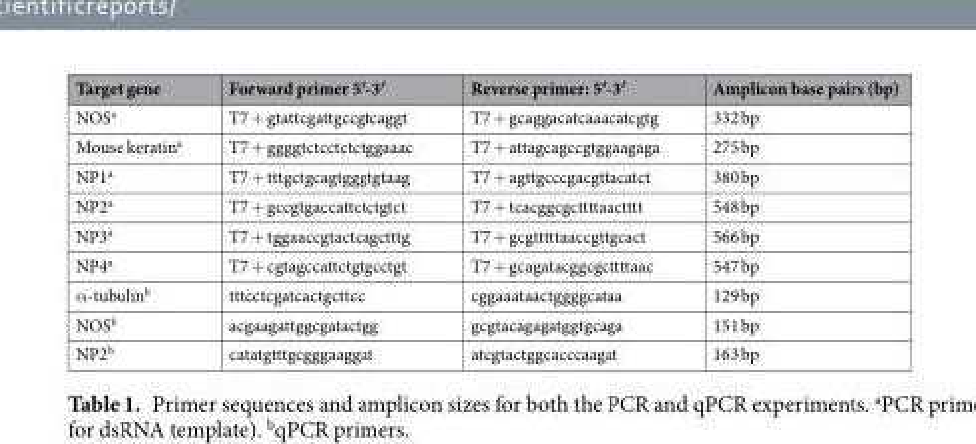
<table><thead><tr><td>Target gene</td><td>Forward primer 5′-3′</td><td>Reverse primer: 5′-3′</td><td>Amplicon base pairs (bp)</td></tr></thead><tbody><tr><td>NOS<sup>a</sup></td><td>T7 + gtattcgattgccgtcaggt</td><td>T7 + gcaggacatcaaacatcgtg</td><td>332 bp</td></tr><tr><td>Mouse keratin<sup>a</sup></td><td>T7 + ggggtctcctctctggaaac</td><td>T7 + attagcagccgtggaagaga</td><td>275 bp</td></tr><tr><td>NP1<sup>a</sup></td><td>T7 + tttgctgcagtgggtgtaag</td><td>T7 + agttgcccgacgttacatct</td><td>380 bp</td></tr><tr><td>NP2<sup>a</sup></td><td>T7 + gccgtgaccattctctgtct</td><td>T7 + tcacggcgcttttaactttt</td><td>548 bp</td></tr><tr><td>NP3<sup>a</sup></td><td>T7 + tggaaccgtactcagctttg</td><td>T7 + gcgtttttaaccgttgcact</td><td>566 bp</td></tr><tr><td>NP4<sup>a</sup></td><td>T7 + cgtagccattctgtgcctgt</td><td>T7 + gcagatacggcgcttttaac</td><td>547 bp</td></tr><tr><td>α-tubulin<sup>b</sup></td><td>tttcctcgatcactgcttcc</td><td>cggaaataactggggcataa</td><td>129 bp</td></tr><tr><td>NOS<sup>b</sup></td><td>acgaagattggcgatactgg</td><td>gcgtacagagatggtgcaga</td><td>151 bp</td></tr><tr><td>NP2<sup>b</sup></td><td>catatgtttgcgggaaggat</td><td>atcgtactggcacccaagat</td><td>163 bp</td></tr></tbody></table>